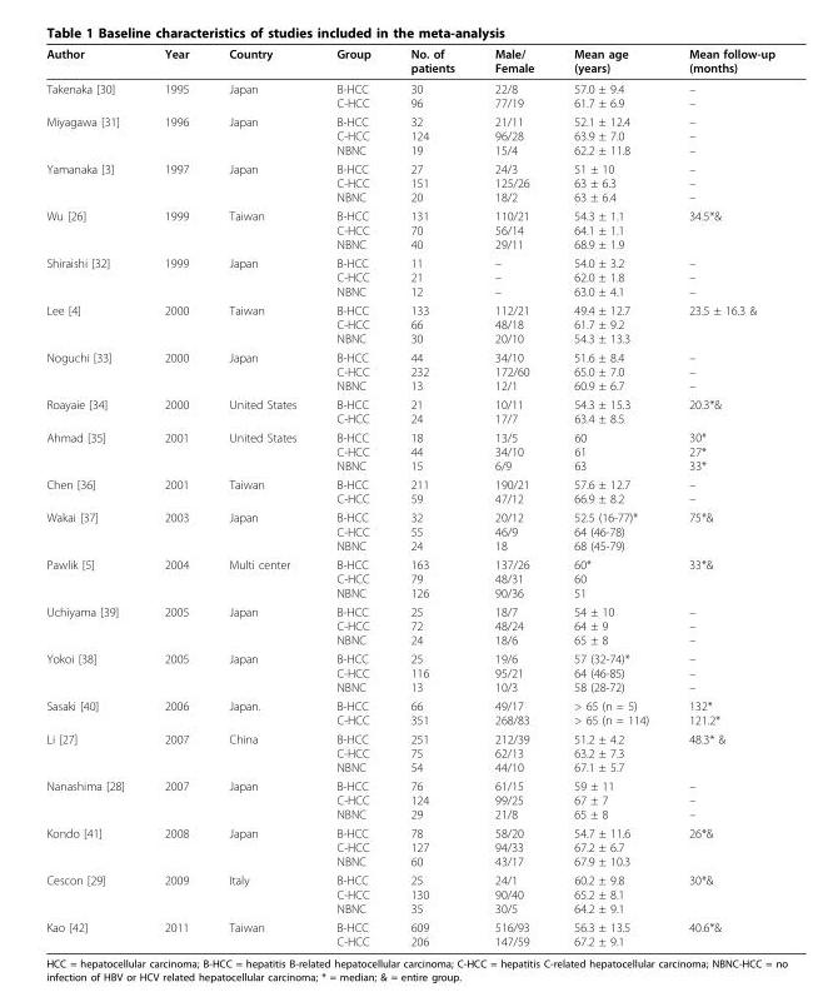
<table><thead><tr><td>Author</td><td>Year</td><td>Country</td><td>Group</td><td>No. of patients</td><td>Male/ Female</td><td>Mean age (years)</td><td>Mean follow-up (months)</td></tr></thead><tbody><tr><td>Takenaka [30]</td><td>1995</td><td>Japan</td><td>B-HCC C-HCC</td><td>30 96</td><td>22/8 77/19</td><td>57.0 ± 9.4 61.7 ± 6.9</td><td>– –</td></tr><tr><td>Miyagawa [31]</td><td>1996</td><td>Japan</td><td>B-HCC C-HCC NBNC</td><td>32 124 19</td><td>21/11 96/28 15/4</td><td>52.1 ± 12.4 63.9 ± 7.0 62.2 ± 11.8</td><td>– – –</td></tr><tr><td>Yamanaka [3]</td><td>1997</td><td>Japan</td><td>B-HCC C-HCC NBNC</td><td>27 151 20</td><td>24/3 125/26 18/2</td><td>51 ± 10 63 ± 6.3 63 ± 6.4</td><td>– – –</td></tr><tr><td>Wu [26]</td><td>1999</td><td>Taiwan</td><td>B-HCC C-HCC NBNC</td><td>131 70 40</td><td>110/21 56/14 29/11</td><td>54.3 ± 1.1 64.1 ± 1.1 68.9 ± 1.9</td><td>34.5*&amp;</td></tr><tr><td>Shiraishi [32]</td><td>1999</td><td>Japan</td><td>B-HCC C-HCC NBNC</td><td>11 21 12</td><td>– – –</td><td>54.0 ± 3.2 62.0 ± 1.8 63.0 ± 4.1</td><td>– – –</td></tr><tr><td>Lee [4]</td><td>2000</td><td>Taiwan</td><td>B-HCC C-HCC NBNC</td><td>133 66 30</td><td>112/21 48/18 20/10</td><td>49.4 ± 12.7 61.7 ± 9.2 54.3 ± 13.3</td><td>23.5 ± 16.3 &amp;</td></tr><tr><td>Noguchi [33]</td><td>2000</td><td>Japan</td><td>B-HCC C-HCC NBNC</td><td>44 232 13</td><td>34/10 172/60 12/1</td><td>51.6 ± 8.4 65.0 ± 7.0 60.9 ± 6.7</td><td>– – –</td></tr><tr><td>Roayaie [34]</td><td>2000</td><td>United States</td><td>B-HCC C-HCC</td><td>21 24</td><td>10/11 17/7</td><td>54.3 ± 15.3 63.4 ± 8.5</td><td>20.3*&amp;</td></tr><tr><td>Ahmad [35]</td><td>2001</td><td>United States</td><td>B-HCC C-HCC NBNC</td><td>18 44 15</td><td>13/5 34/10 6/9</td><td>60 61 63</td><td>30* 27* 33*</td></tr><tr><td>Chen [36]</td><td>2001</td><td>Taiwan</td><td>B-HCC C-HCC</td><td>211 59</td><td>190/21 47/12</td><td>57.6 ± 12.7 66.9 ± 8.2</td><td>– –</td></tr><tr><td>Wakai [37]</td><td>2003</td><td>Japan</td><td>B-HCC C-HCC NBNC</td><td>32 55 24</td><td>20/12 46/9 18</td><td>52.5 (16-77)* 64 (46-78) 68 (45-79)</td><td>75*&amp;</td></tr><tr><td>Pawlik [5]</td><td>2004</td><td>Multi center</td><td>B-HCC C-HCC NBNC</td><td>163 79 126</td><td>137/26 48/31 90/36</td><td>60* 60 51</td><td>33*&amp;</td></tr><tr><td>Uchiyama [39]</td><td>2005</td><td>Japan</td><td>B-HCC C-HCC NBNC</td><td>25 72 24</td><td>18/7 48/24 18/6</td><td>54 ± 10 64 ± 9 65 ± 8</td><td>– – –</td></tr><tr><td>Yokoi [38]</td><td>2005</td><td>Japan</td><td>B-HCC C-HCC NBNC</td><td>25 116 13</td><td>19/6 95/21 10/3</td><td>57 (32-74)* 64 (46-85) 58 (28-72)</td><td>– – –</td></tr><tr><td>Sasaki [40]</td><td>2006</td><td>Japan.</td><td>B-HCC C-HCC</td><td>66 351</td><td>49/17 268/83</td><td>&gt; 65 (n = 5) &gt; 65 (n = 114)</td><td>132* 121.2*</td></tr><tr><td>Li [27]</td><td>2007</td><td>China</td><td>B-HCC C-HCC NBNC</td><td>251 75 54</td><td>212/39 62/13 44/10</td><td>51.2 ± 4.2 63.2 ± 7.3 67.1 ± 5.7</td><td>48.3* &amp;</td></tr><tr><td>Nanashima [28]</td><td>2007</td><td>Japan</td><td>B-HCC C-HCC NBNC</td><td>76 124 29</td><td>61/15 99/25 21/8</td><td>59 ± 11 67 ± 7 65 ± 8</td><td>– – –</td></tr><tr><td>Kondo [41]</td><td>2008</td><td>Japan</td><td>B-HCC C-HCC NBNC</td><td>78 127 60</td><td>58/20 94/33 43/17</td><td>54.7 ± 11.6 67.2 ± 6.7 67.9 ± 10.3</td><td>26*&amp;</td></tr><tr><td>Cescon [29]</td><td>2009</td><td>Italy</td><td>B-HCC C-HCC NBNC</td><td>25 130 35</td><td>24/1 90/40 30/5</td><td>60.2 ± 9.8 65.2 ± 8.1 64.2 ± 9.1</td><td>30*&amp;</td></tr><tr><td>Kao [42]</td><td>2011</td><td>Taiwan</td><td>B-HCC C-HCC</td><td>609 206</td><td>516/93 147/59</td><td>56.3 ± 13.5 67.2 ± 9.1</td><td>40.6*&amp;</td></tr></tbody></table>